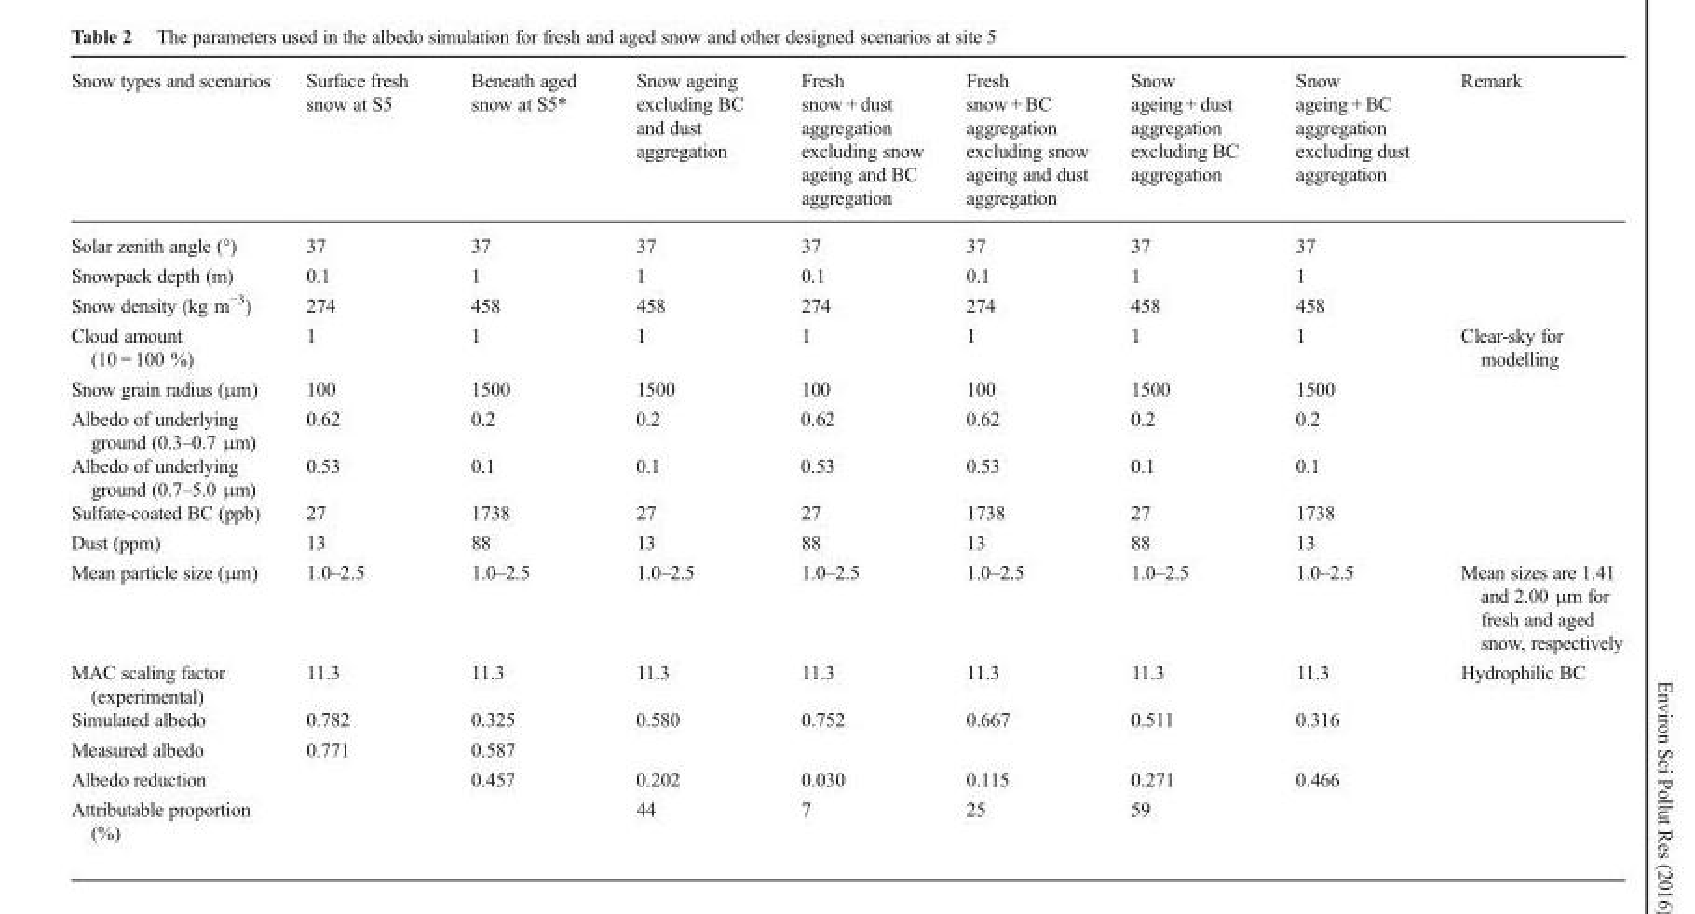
<table><thead><tr><td>Snow types and scenarios</td><td>Surface fresh snow at S5</td><td>Beneath aged snow at S5*</td><td>Snow ageing excluding BC and dust aggregation</td><td>Fresh snow + dust aggregation excluding snow ageing and BC aggregation</td><td>Fresh snow + BC aggregation excluding snow ageing and dust aggregation</td><td>Snow ageing + dust aggregation excluding BC aggregation</td><td>Snow ageing + BC aggregation excluding dust aggregation</td><td>Remark</td></tr></thead><tbody><tr><td>Solar zenith angle (°)</td><td>37</td><td>37</td><td>37</td><td>37</td><td>37</td><td>37</td><td>37</td><td></td></tr><tr><td>Snowpack depth (m)</td><td>0.1</td><td>1</td><td>1</td><td>0.1</td><td>0.1</td><td>1</td><td>1</td><td></td></tr><tr><td>Snow density (kg m<sup>−3</sup>)</td><td>274</td><td>458</td><td>458</td><td>274</td><td>274</td><td>458</td><td>458</td><td></td></tr><tr><td>Cloud amount (10 = 100 %)</td><td>1</td><td>1</td><td>1</td><td>1</td><td>1</td><td>1</td><td>1</td><td>Clear-sky for modelling</td></tr><tr><td>Snow grain radius (μm)</td><td>100</td><td>1500</td><td>1500</td><td>100</td><td>100</td><td>1500</td><td>1500</td><td></td></tr><tr><td>Albedo of underlying ground (0.3–0.7 μm)</td><td>0.62</td><td>0.2</td><td>0.2</td><td>0.62</td><td>0.62</td><td>0.2</td><td>0.2</td><td></td></tr><tr><td>Albedo of underlying ground (0.7–5.0 μm)</td><td>0.53</td><td>0.1</td><td>0.1</td><td>0.53</td><td>0.53</td><td>0.1</td><td>0.1</td><td></td></tr><tr><td>Sulfate-coated BC (ppb)</td><td>27</td><td>1738</td><td>27</td><td>27</td><td>1738</td><td>27</td><td>1738</td><td></td></tr><tr><td>Dust (ppm)</td><td>13</td><td>88</td><td>13</td><td>88</td><td>13</td><td>88</td><td>13</td><td></td></tr><tr><td>Mean particle size (μm)</td><td>1.0–2.5</td><td>1.0–2.5</td><td>1.0–2.5</td><td>1.0–2.5</td><td>1.0–2.5</td><td>1.0–2.5</td><td>1.0–2.5</td><td>Mean sizes are 1.41 and 2.00 μm for fresh and aged snow, respectively</td></tr><tr><td>MAC scaling factor (experimental)</td><td>11.3</td><td>11.3</td><td>11.3</td><td>11.3</td><td>11.3</td><td>11.3</td><td>11.3</td><td>Hydrophilic BC</td></tr><tr><td>Simulated albedo</td><td>0.782</td><td>0.325</td><td>0.580</td><td>0.752</td><td>0.667</td><td>0.511</td><td>0.316</td><td></td></tr><tr><td>Measured albedo</td><td>0.771</td><td>0.587</td><td></td><td></td><td></td><td></td><td></td><td></td></tr><tr><td>Albedo reduction</td><td></td><td>0.457</td><td>0.202</td><td>0.030</td><td>0.115</td><td>0.271</td><td>0.466</td><td></td></tr><tr><td>Attributable proportion (%)</td><td></td><td></td><td>44</td><td>7</td><td>25</td><td>59</td><td></td><td></td></tr></tbody></table>